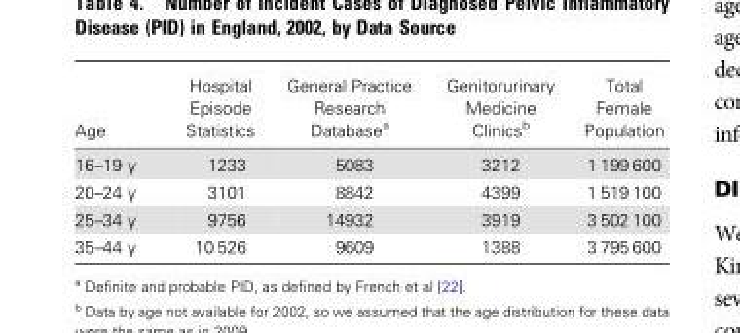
<table><thead><tr><td>Age</td><td>Hospital Episode Statistics</td><td>General Practice Research Database<sup>a</sup></td><td>Genitorurinary Medicine Clinics<sup>b</sup></td><td>Total Female Population</td></tr></thead><tbody><tr><td>16–19 y</td><td>1233</td><td>5083</td><td>3212</td><td>1 199 600</td></tr><tr><td>20–24 y</td><td>3101</td><td>8842</td><td>4399</td><td>1 519 100</td></tr><tr><td>25–34 y</td><td>9756</td><td>14932</td><td>3919</td><td>3 502 100</td></tr><tr><td>35–44 y</td><td>10 526</td><td>9609</td><td>1388</td><td>3 795 600</td></tr></tbody></table>